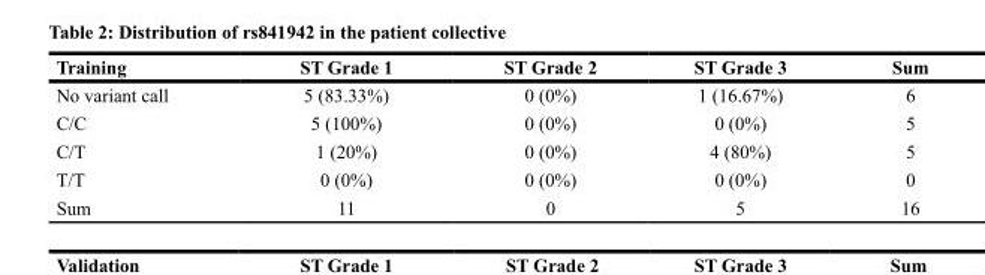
<table><thead><tr><td>Training</td><td>ST Grade 1</td><td>ST Grade 2</td><td>ST Grade 3</td><td>Sum</td></tr></thead><tbody><tr><td>No variant call</td><td>5 (83.33%)</td><td>0 (0%)</td><td>1 (16.67%)</td><td>6</td></tr><tr><td>C/C</td><td>5 (100%)</td><td>0 (0%)</td><td>0 (0%)</td><td>5</td></tr><tr><td>C/T</td><td>1 (20%)</td><td>0 (0%)</td><td>4 (80%)</td><td>5</td></tr><tr><td>T/T</td><td>0 (0%)</td><td>0 (0%)</td><td>0 (0%)</td><td>0</td></tr><tr><td>Sum</td><td>11</td><td>0</td><td>5</td><td>16</td></tr></tbody></table>